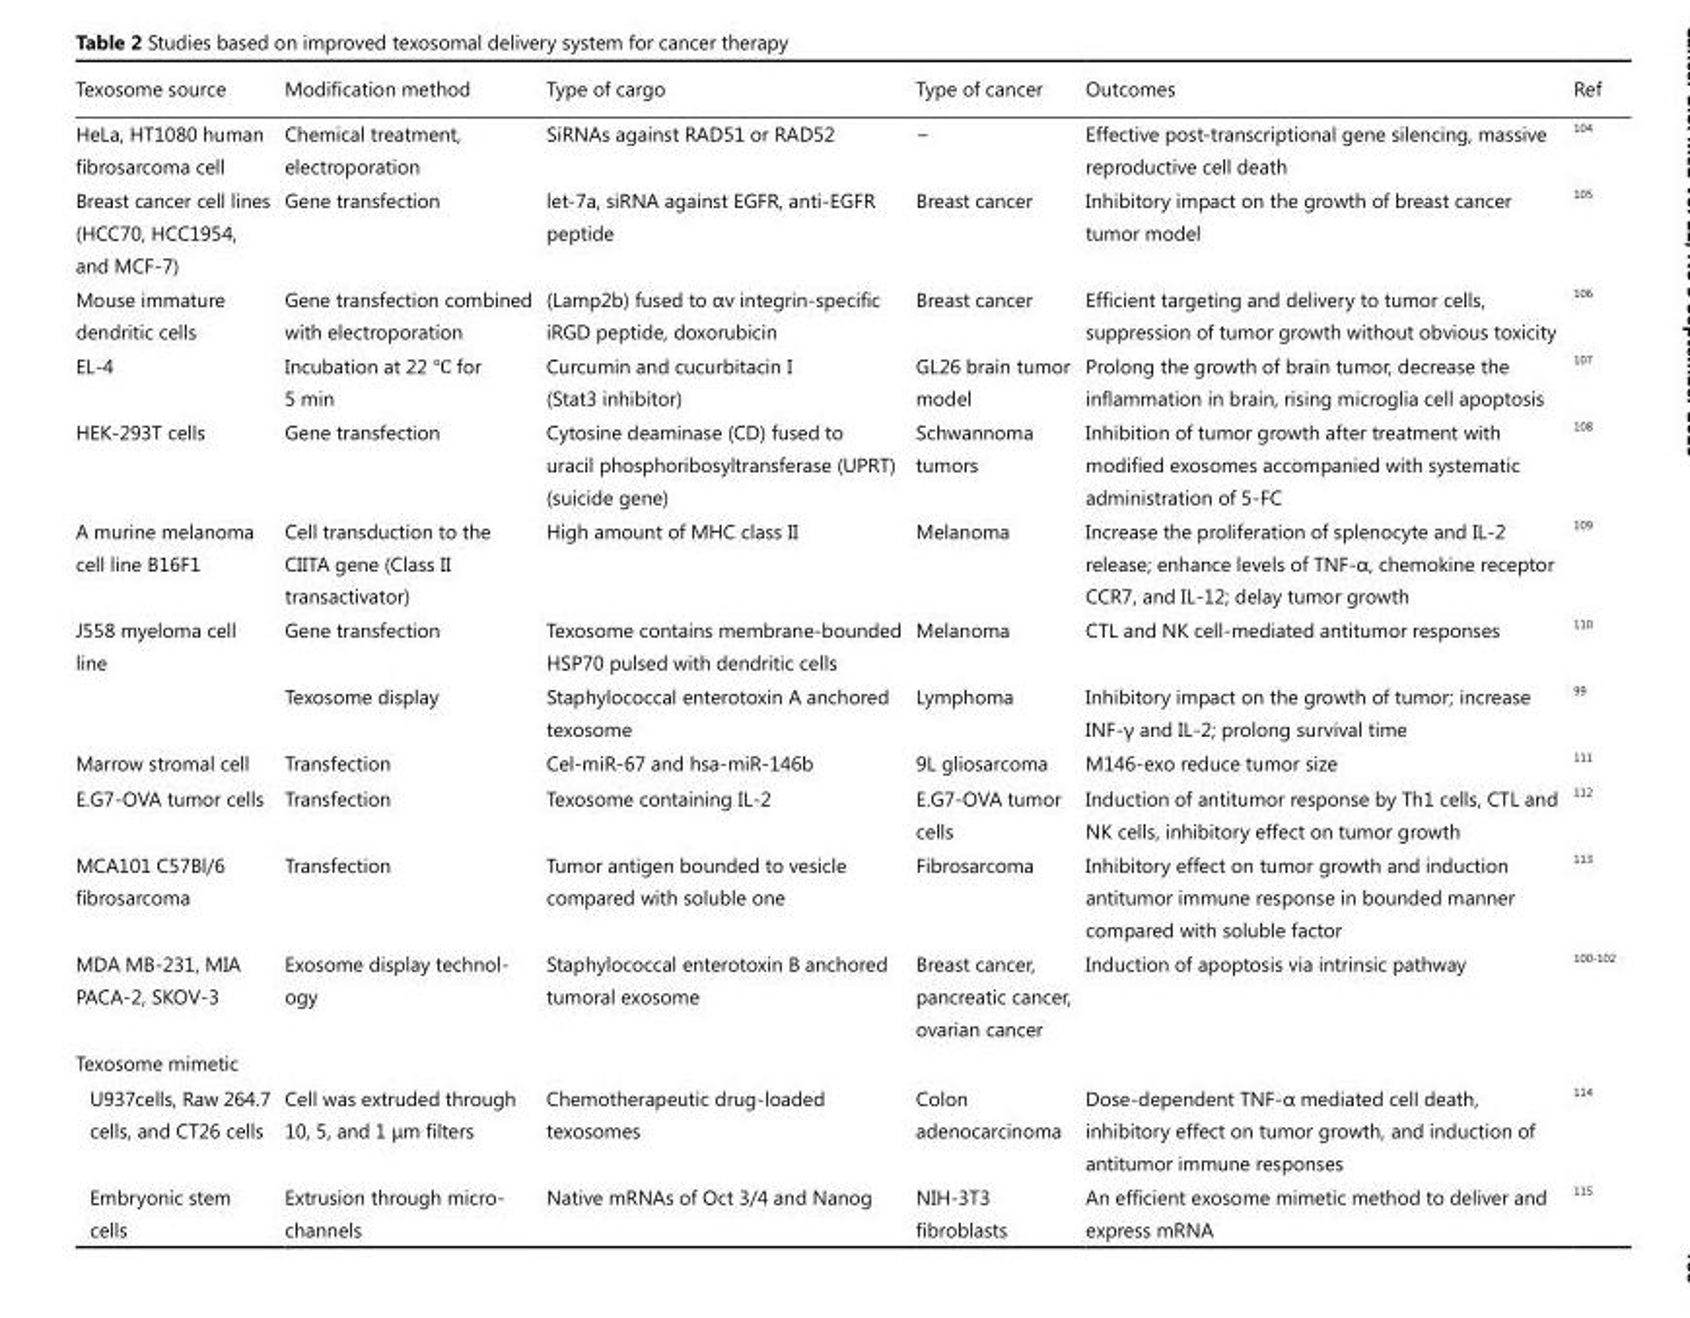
<table><thead><tr><td>Texosome source</td><td>Modification method</td><td>Type of cargo</td><td>Type of cancer</td><td>Outcomes</td><td>Ref</td></tr></thead><tbody><tr><td>HeLa, HT1080 human fibrosarcoma cell</td><td>Chemical treatment, electroporation</td><td>SiRNAs against RAD51 or RAD52</td><td>−</td><td>Effective post-transcriptional gene silencing, massive reproductive cell death</td><td><sup>104</sup></td></tr><tr><td>Breast cancer cell lines (HCC70, HCC1954, and MCF-7)</td><td>Gene transfection</td><td>let-7a, siRNA against EGFR, anti-EGFR peptide</td><td>Breast cancer</td><td>Inhibitory impact on the growth of breast cancer tumor model</td><td><sup>105</sup></td></tr><tr><td>Mouse immature dendritic cells</td><td>Gene transfection combined with electroporation</td><td>(Lamp2b) fused to αv integrin-specific iRGD peptide, doxorubicin</td><td>Breast cancer</td><td>Efficient targeting and delivery to tumor cells, suppression of tumor growth without obvious toxicity</td><td><sup>106</sup></td></tr><tr><td>EL-4</td><td>Incubation at 22 ℃ for 5 min</td><td>Curcumin and cucurbitacin I (Stat3 inhibitor)</td><td>GL26 brain tumor model</td><td>Prolong the growth of brain tumor, decrease the inflammation in brain, rising microglia cell apoptosis</td><td><sup>107</sup></td></tr><tr><td>HEK-293T cells</td><td>Gene transfection</td><td>Cytosine deaminase (CD) fused to uracil phosphoribosyltransferase (UPRT) (suicide gene)</td><td>Schwannoma tumors</td><td>Inhibition of tumor growth after treatment with modified exosomes accompanied with systematic administration of 5-FC</td><td><sup>108</sup></td></tr><tr><td>A murine melanoma cell line B16F1</td><td>Cell transduction to the CIITA gene (Class II transactivator)</td><td>High amount of MHC class II</td><td>Melanoma</td><td>Increase the proliferation of splenocyte and IL-2 release; enhance levels of TNF-α, chemokine receptor CCR7, and IL-12; delay tumor growth</td><td><sup>109</sup></td></tr><tr><td rowspan="2">J558 myeloma cell line</td><td>Gene transfection</td><td>Texosome contains membrane-bounded HSP70 pulsed with dendritic cells</td><td>Melanoma</td><td>CTL and NK cell-mediated antitumor responses</td><td><sup>110</sup></td></tr><tr><td>Texosome display</td><td>Staphylococcal enterotoxin A anchored texosome</td><td>Lymphoma</td><td>Inhibitory impact on the growth of tumor; increase INF-γ and IL-2; prolong survival time</td><td><sup>99</sup></td></tr><tr><td>Marrow stromal cell</td><td>Transfection</td><td>Cel-miR-67 and hsa-miR-146b</td><td>9L gliosarcoma</td><td>M146-exo reduce tumor size</td><td><sup>111</sup></td></tr><tr><td>E.G7-OVA tumor cells</td><td>Transfection</td><td>Texosome containing IL-2</td><td>E.G7-OVA tumor cells</td><td>Induction of antitumor response by Th1 cells, CTL and NK cells, inhibitory effect on tumor growth</td><td><sup>112</sup></td></tr><tr><td>MCA101 C57Bl/6 fibrosarcoma</td><td>Transfection</td><td>Tumor antigen bounded to vesicle compared with soluble one</td><td>Fibrosarcoma</td><td>Inhibitory effect on tumor growth and induction antitumor immune response in bounded manner compared with soluble factor</td><td><sup>113</sup></td></tr><tr><td>MDA MB-231, MIA PACA-2, SKOV-3</td><td>Exosome display technol- ogy</td><td>Staphylococcal enterotoxin B anchored tumoral exosome</td><td>Breast cancer, pancreatic cancer, ovarian cancer</td><td>Induction of apoptosis via intrinsic pathway</td><td><sup>100-102</sup></td></tr><tr><td colspan="6">Texosome mimetic</td></tr><tr><td>U937cells, Raw 264.7 cells, and CT26 cells</td><td>Cell was extruded through 10, 5, and 1 μm filters</td><td>Chemotherapeutic drug-loaded texosomes</td><td>Colon adenocarcinoma</td><td>Dose-dependent TNF-α mediated cell death, inhibitory effect on tumor growth, and induction of antitumor immune responses</td><td><sup>114</sup></td></tr><tr><td>Embryonic stem cells</td><td>Extrusion through micro- channels</td><td>Native mRNAs of Oct 3/4 and Nanog</td><td>NIH-3T3 fibroblasts</td><td>An efficient exosome mimetic method to deliver and express mRNA</td><td><sup>115</sup></td></tr></tbody></table>